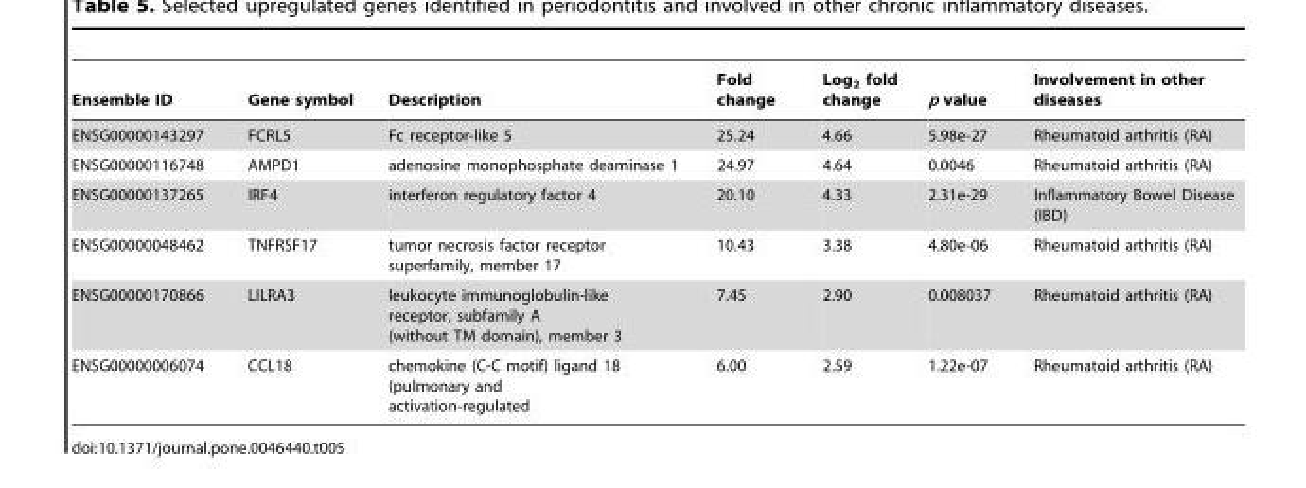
<table><thead><tr><td>Ensemble ID</td><td>Gene symbol</td><td>Description</td><td>Fold change</td><td>Log<sub>2</sub> fold change</td><td>p value</td><td>Involvement in other diseases</td></tr></thead><tbody><tr><td>ENSG00000143297</td><td>FCRL5</td><td>Fc receptor-like 5</td><td>25.24</td><td>4.66</td><td>5.98e-27</td><td>Rheumatoid arthritis (RA)</td></tr><tr><td>ENSG00000116748</td><td>AMPD1</td><td>adenosine monophosphate deaminase 1</td><td>24.97</td><td>4.64</td><td>0.0046</td><td>Rheumatoid arthritis (RA)</td></tr><tr><td>ENSG00000137265</td><td>IRF4</td><td>interferon regulatory factor 4</td><td>20.10</td><td>4.33</td><td>2.31e-29</td><td>Inflammatory Bowel Disease (IBD)</td></tr><tr><td>ENSG00000048462</td><td>TNFRSF17</td><td>tumor necrosis factor receptor superfamily, member 17</td><td>10.43</td><td>3.38</td><td>4.80e-06</td><td>Rheumatoid arthritis (RA)</td></tr><tr><td>ENSG00000170866</td><td>LILRA3</td><td>leukocyte immunoglobulin-like receptor, subfamily A (without TM domain), member 3</td><td>7.45</td><td>2.90</td><td>0.008037</td><td>Rheumatoid arthritis (RA)</td></tr><tr><td>ENSG00000006074</td><td>CCL18</td><td>chemokine (C-C motif) ligand 18 (pulmonary and activation-regulated</td><td>6.00</td><td>2.59</td><td>1.22e-07</td><td>Rheumatoid arthritis (RA)</td></tr></tbody></table>